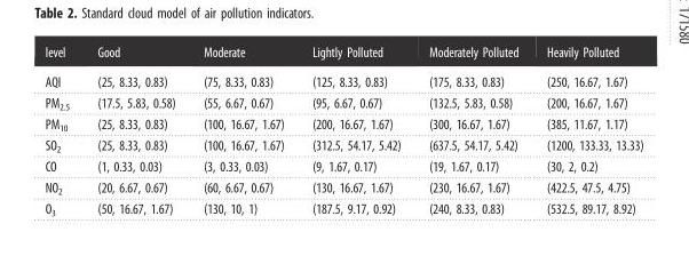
<table><thead><tr><td>level</td><td>Good</td><td>Moderate</td><td>Lightly Polluted</td><td>Moderately Polluted</td><td>Heavily Polluted</td></tr></thead><tbody><tr><td>AQI</td><td>(25, 8.33, 0.83)</td><td>(75, 8.33, 0.83)</td><td>(125, 8.33, 0.83)</td><td>(175, 8.33, 0.83)</td><td>(250, 16.67, 1.67)</td></tr><tr><td>PM<sub>2.5</sub></td><td>(17.5, 5.83, 0.58)</td><td>(55, 6.67, 0.67)</td><td>(95, 6.67, 0.67)</td><td>(132.5, 5.83, 0.58)</td><td>(200, 16.67, 1.67)</td></tr><tr><td>PM<sub>10</sub></td><td>(25, 8.33, 0.83)</td><td>(100, 16.67, 1.67)</td><td>(200, 16.67, 1.67)</td><td>(300, 16.67, 1.67)</td><td>(385, 11.67, 1.17)</td></tr><tr><td>SO<sub>2</sub></td><td>(25, 8.33, 0.83)</td><td>(100, 16.67, 1.67)</td><td>(312.5, 54.17, 5.42)</td><td>(637.5, 54.17, 5.42)</td><td>(1200, 133.33, 13.33)</td></tr><tr><td>CO</td><td>(1, 0.33, 0.03)</td><td>(3, 0.33, 0.03)</td><td>(9, 1.67, 0.17)</td><td>(19, 1.67, 0.17)</td><td>(30, 2, 0.2)</td></tr><tr><td>NO<sub>2</sub></td><td>(20, 6.67, 0.67)</td><td>(60, 6.67, 0.67)</td><td>(130, 16.67, 1.67)</td><td>(230, 16.67, 1.67)</td><td>(422.5, 47.5, 4.75)</td></tr><tr><td>O<sub>3</sub></td><td>(50, 16.67, 1.67)</td><td>(130, 10, 1)</td><td>(187.5, 9.17, 0.92)</td><td>(240, 8.33, 0.83)</td><td>(532.5, 89.17, 8.92)</td></tr></tbody></table>